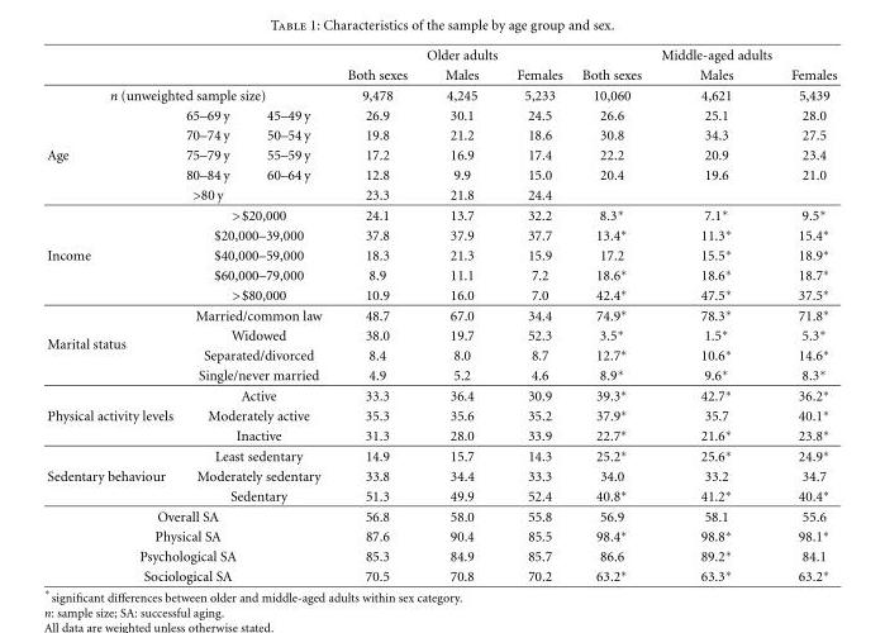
<table><thead><tr><td rowspan="2"></td><td rowspan="2"></td><td rowspan="2"></td><td rowspan="2">Both sexes</td><td rowspan="2">Older adults Males</td><td rowspan="2">Females</td><td rowspan="2">Both sexes</td><td rowspan="2">Middle-aged adults Males</td><td rowspan="2">Females</td></tr><tr></tr></thead><tbody><tr><td colspan="3">n (unweighted sample size)</td><td>9,478</td><td>4,245</td><td>5,233</td><td>10,060</td><td>4,621</td><td>5,439</td></tr><tr><td></td><td>65–69 y</td><td>45–49 y</td><td>26.9</td><td>30.1</td><td>24.5</td><td>26.6</td><td>25.1</td><td>28.0</td></tr><tr><td></td><td>70–74 y</td><td>50–54 y</td><td>19.8</td><td>21.2</td><td>18.6</td><td>30.8</td><td>34.3</td><td>27.5</td></tr><tr><td rowspan="5">Age</td><td>75–79 y</td><td>55–59 y</td><td>17.2</td><td>16.9</td><td>17.4</td><td>22.2</td><td>20.9</td><td>23.4</td></tr><tr><td>80–84 y</td><td>60–64 y</td><td>12.8</td><td>9.9</td><td>15.0</td><td>20.4</td><td>19.6</td><td>21.0</td></tr><tr><td>&gt;80 y</td><td></td><td>23.3</td><td>21.8</td><td>24.4</td><td></td><td></td><td></td></tr><tr><td colspan="2">&gt;$20,000</td><td>24.1</td><td>13.7</td><td>32.2</td><td>8.3∗</td><td>7.1∗</td><td>9.5∗</td></tr><tr><td colspan="2">$20,000–39,000</td><td>37.8</td><td>37.9</td><td>37.7</td><td>13.4∗</td><td>11.3∗</td><td>15.4∗</td></tr><tr><td rowspan="4">Income</td><td colspan="2">$40,000–59,000</td><td>18.3</td><td>21.3</td><td>15.9</td><td>17.2</td><td>15.5∗</td><td>18.9∗</td></tr><tr><td colspan="2">$60,000–79,000</td><td>8.9</td><td>11.1</td><td>7.2</td><td>18.6∗</td><td>18.6∗</td><td>18.7∗</td></tr><tr><td colspan="2">&gt;$80,000</td><td>10.9</td><td>16.0</td><td>7.0</td><td>42.4∗</td><td>47.5∗</td><td>37.5∗</td></tr><tr><td colspan="2">Married/common law</td><td>48.7</td><td>67.0</td><td>34.4</td><td>74.9∗</td><td>78.3∗</td><td>71.8∗</td></tr><tr><td rowspan="4">Marital status</td><td colspan="2">Widowed</td><td>38.0</td><td>19.7</td><td>52.3</td><td>3.5∗</td><td>1.5∗</td><td>5.3∗</td></tr><tr><td colspan="2">Separated/divorced</td><td>8.4</td><td>8.0</td><td>8.7</td><td>12.7∗</td><td>10.6∗</td><td>14.6∗</td></tr><tr><td colspan="2">Single/never married</td><td>4.9</td><td>5.2</td><td>4.6</td><td>8.9∗</td><td>9.6∗</td><td>8.3∗</td></tr><tr><td colspan="2">Active</td><td>33.3</td><td>36.4</td><td>30.9</td><td>39.3∗</td><td>42.7∗</td><td>36.2∗</td></tr><tr><td rowspan="3">Physical activity levels</td><td colspan="2">Moderately active</td><td>35.3</td><td>35.6</td><td>35.2</td><td>37.9∗</td><td>35.7</td><td>40.1∗</td></tr><tr><td colspan="2">Inactive</td><td>31.3</td><td>28.0</td><td>33.9</td><td>22.7∗</td><td>21.6∗</td><td>23.8∗</td></tr><tr><td colspan="2">Least sedentary</td><td>14.9</td><td>15.7</td><td>14.3</td><td>25.2∗</td><td>25.6∗</td><td>24.9∗</td></tr><tr><td rowspan="2">Sedentary behaviour</td><td colspan="2">Moderately sedentary</td><td>33.8</td><td>34.4</td><td>33.3</td><td>34.0</td><td>33.2</td><td>34.7</td></tr><tr><td colspan="2">Sedentary</td><td>51.3</td><td>49.9</td><td>52.4</td><td>40.8∗</td><td>41.2∗</td><td>40.4∗</td></tr><tr><td colspan="3">Overall SA</td><td>56.8</td><td>58.0</td><td>55.8</td><td>56.9</td><td>58.1</td><td>55.6</td></tr><tr><td colspan="3">Physical SA</td><td>87.6</td><td>90.4</td><td>85.5</td><td>98.4∗</td><td>98.8∗</td><td>98.1∗</td></tr><tr><td colspan="3">Psychological SA</td><td>85.3</td><td>84.9</td><td>85.7</td><td>86.6</td><td>89.2∗</td><td>84.1</td></tr><tr><td colspan="3">Sociological SA</td><td>70.5</td><td>70.8</td><td>70.2</td><td>63.2∗</td><td>63.3∗</td><td>63.2∗</td></tr></tbody></table>